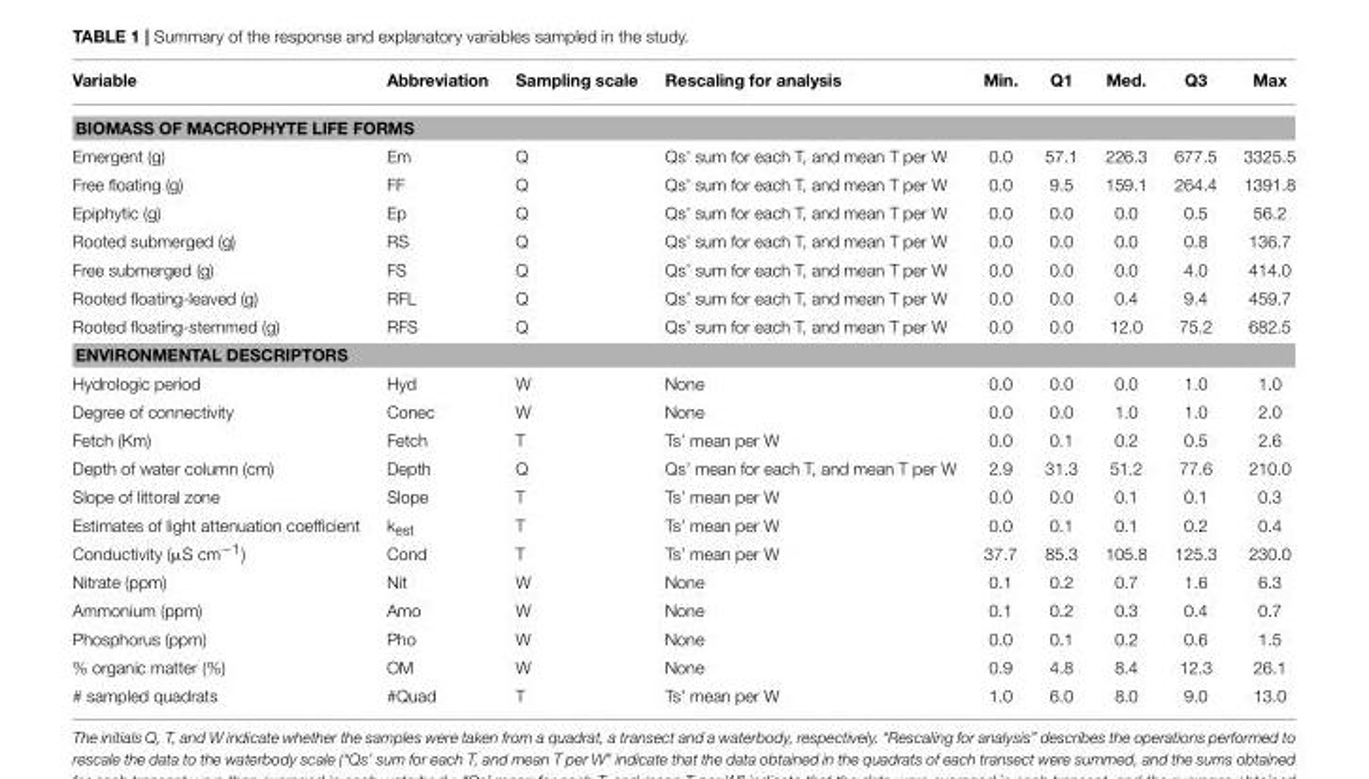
<table><thead><tr><td>Variable</td><td>Abbreviation</td><td>Sampling scale</td><td>Rescaling for analysis</td><td>Min.</td><td>Q1</td><td>Med.</td><td>Q3</td><td>Max</td></tr></thead><tbody><tr><td colspan="9">BIOMASS OF MACROPHYTE LIFE FORMS</td></tr><tr><td>Emergent (g)</td><td>Em</td><td>Q</td><td>Qs’ sum for each T, and mean T per W</td><td>0.0</td><td>57.1</td><td>226.3</td><td>677.5</td><td>3325.5</td></tr><tr><td>Free floating (g)</td><td>FF</td><td>Q</td><td>Qs’ sum for each T, and mean T per W</td><td>0.0</td><td>9.5</td><td>159.1</td><td>264.4</td><td>1391.8</td></tr><tr><td>Epiphytic (g)</td><td>Ep</td><td>Q</td><td>Qs’ sum for each T, and mean T per W</td><td>0.0</td><td>0.0</td><td>0.0</td><td>0.5</td><td>56.2</td></tr><tr><td>Rooted submerged (g)</td><td>RS</td><td>Q</td><td>Qs’ sum for each T, and mean T per W</td><td>0.0</td><td>0.0</td><td>0.0</td><td>0.8</td><td>136.7</td></tr><tr><td>Free submerged (g)</td><td>FS</td><td>Q</td><td>Qs’ sum for each T, and mean T per W</td><td>0.0</td><td>0.0</td><td>0.0</td><td>4.0</td><td>414.0</td></tr><tr><td>Rooted floating-leaved (g)</td><td>RFL</td><td>Q</td><td>Qs’ sum for each T, and mean T per W</td><td>0.0</td><td>0.0</td><td>0.4</td><td>9.4</td><td>459.7</td></tr><tr><td>Rooted floating-stemmed (g)</td><td>RFS</td><td>Q</td><td>Qs’ sum for each T, and mean T per W</td><td>0.0</td><td>0.0</td><td>12.0</td><td>75.2</td><td>682.5</td></tr><tr><td colspan="9">ENVIRONMENTAL DESCRIPTORS</td></tr><tr><td>Hydrologic period</td><td>Hyd</td><td>W</td><td>None</td><td>0.0</td><td>0.0</td><td>0.0</td><td>1.0</td><td>1.0</td></tr><tr><td>Degree of connectivity</td><td>Conec</td><td>W</td><td>None</td><td>0.0</td><td>0.0</td><td>1.0</td><td>1.0</td><td>2.0</td></tr><tr><td>Fetch (Km)</td><td>Fetch</td><td>T</td><td>Ts’ mean per W</td><td>0.0</td><td>0.1</td><td>0.2</td><td>0.5</td><td>2.6</td></tr><tr><td>Depth of water column (cm)</td><td>Depth</td><td>Q</td><td>Qs’ mean for each T, and mean T per W</td><td>2.9</td><td>31.3</td><td>51.2</td><td>77.6</td><td>210.0</td></tr><tr><td>Slope of littoral zone</td><td>Slope</td><td>T</td><td>Ts’ mean per W</td><td>0.0</td><td>0.0</td><td>0.1</td><td>0.1</td><td>0.3</td></tr><tr><td>Estimates of light attenuation coefficient</td><td>k<sub>est</sub></td><td>T</td><td>Ts’ mean per W</td><td>0.0</td><td>0.1</td><td>0.1</td><td>0.2</td><td>0.4</td></tr><tr><td>Conductivity (µS cm<sup>−1</sup>)</td><td>Cond</td><td>T</td><td>Ts’ mean per W</td><td>37.7</td><td>85.3</td><td>105.8</td><td>125.3</td><td>230.0</td></tr><tr><td>Nitrate (ppm)</td><td>Nit</td><td>W</td><td>None</td><td>0.1</td><td>0.2</td><td>0.7</td><td>1.6</td><td>6.3</td></tr><tr><td>Ammonium (ppm)</td><td>Amo</td><td>W</td><td>None</td><td>0.1</td><td>0.2</td><td>0.3</td><td>0.4</td><td>0.7</td></tr><tr><td>Phosphorus (ppm)</td><td>Pho</td><td>W</td><td>None</td><td>0.0</td><td>0.1</td><td>0.2</td><td>0.6</td><td>1.5</td></tr><tr><td>% organic matter (%)</td><td>OM</td><td>W</td><td>None</td><td>0.9</td><td>4.8</td><td>8.4</td><td>12.3</td><td>26.1</td></tr><tr><td># sampled quadrats</td><td>#Quad</td><td>T</td><td>Ts’ mean per W</td><td>1.0</td><td>6.0</td><td>8.0</td><td>9.0</td><td>13.0</td></tr></tbody></table>